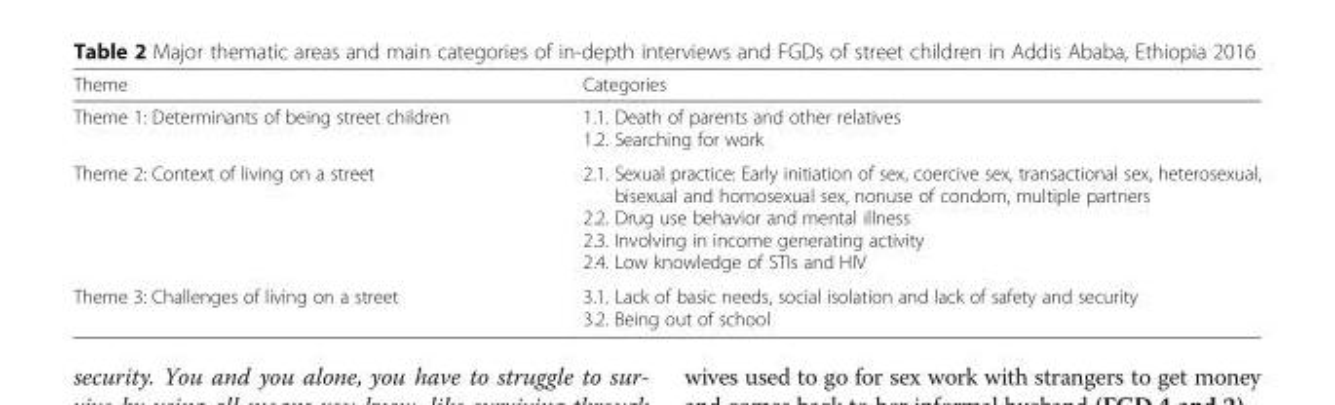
<table><thead><tr><td>Theme</td><td>Categories</td></tr></thead><tbody><tr><td>Theme 1: Determinants of being street children</td><td>1.1. Death of parents and other relatives 1.2. Searching for work</td></tr><tr><td>Theme 2: Context of living on a street</td><td>2.1. Sexual practice: Early initiation of sex, coercive sex, transactional sex, heterosexual, bisexual and homosexual sex, nonuse of condom, multiple partners 2.2. Drug use behavior and mental illness 2.3. Involving in income generating activity 2.4. Low knowledge of STIs and HIV</td></tr><tr><td>Theme 3: Challenges of living on a street</td><td>3.1. Lack of basic needs, social isolation and lack of safety and security 3.2. Being out of school</td></tr></tbody></table>